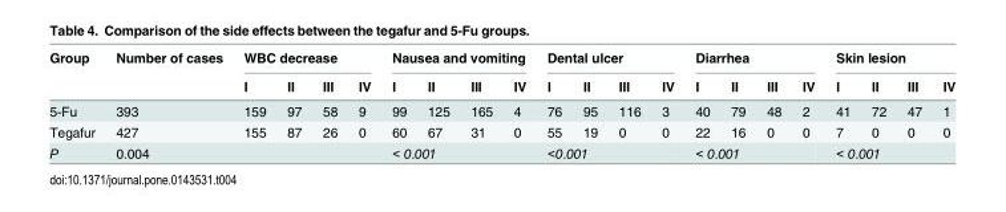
<table><thead><tr><td rowspan="2">Group</td><td rowspan="2">Number of cases</td><td colspan="4">WBC decrease</td><td colspan="4">Nausea and vomiting</td><td colspan="4">Dental ulcer</td><td colspan="4">Diarrhea</td><td colspan="4">Skin lesion</td></tr><tr><td>I</td><td>II</td><td>III</td><td>IV</td><td>I</td><td>II</td><td>III</td><td>IV</td><td>I</td><td>II</td><td>III</td><td>IV</td><td>I</td><td>II</td><td>III</td><td>IV</td><td>I</td><td>II</td><td>III</td><td>IV</td></tr></thead><tbody><tr><td>5-Fu</td><td>393</td><td>159</td><td>97</td><td>58</td><td>9</td><td>99</td><td>125</td><td>165</td><td>4</td><td>76</td><td>95</td><td>116</td><td>3</td><td>40</td><td>79</td><td>48</td><td>2</td><td>41</td><td>72</td><td>47</td><td>1</td></tr><tr><td>Tegafur</td><td>427</td><td>155</td><td>87</td><td>26</td><td>0</td><td>60</td><td>67</td><td>31</td><td>0</td><td>55</td><td>19</td><td>0</td><td>0</td><td>22</td><td>16</td><td>0</td><td>0</td><td>7</td><td>0</td><td>0</td><td>0</td></tr><tr><td>P</td><td colspan="5">0.004</td><td colspan="4">&lt; 0.001</td><td colspan="4">&lt;0.001</td><td colspan="4">&lt; 0.001</td><td colspan="4">&lt; 0.001</td></tr></tbody></table>